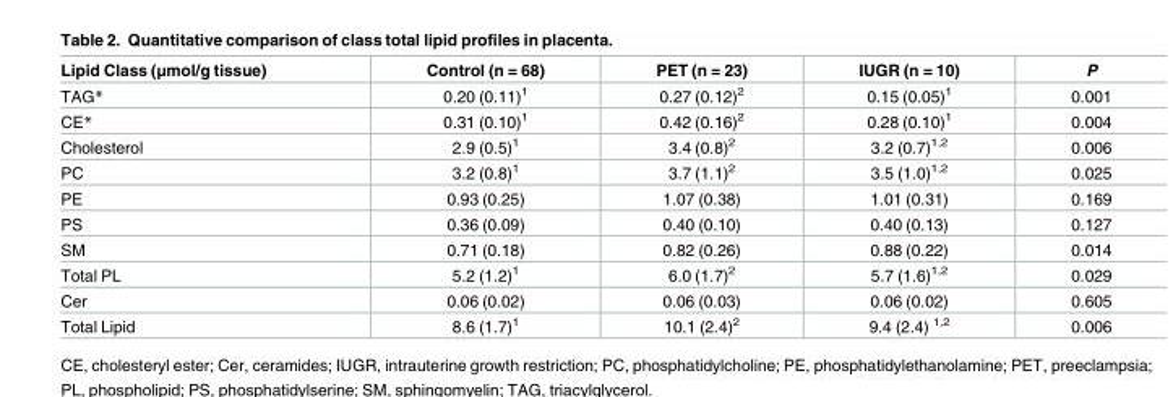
<table><thead><tr><td>Lipid Class (μmol/g tissue)</td><td>Control (n = 68)</td><td>PET (n = 23)</td><td>IUGR (n = 10)</td><td>P</td></tr></thead><tbody><tr><td>TAG*</td><td>0.20 (0.11)<sup>1</sup></td><td>0.27 (0.12)<sup>2</sup></td><td>0.15 (0.05)<sup>1</sup></td><td>0.001</td></tr><tr><td>CE*</td><td>0.31 (0.10)<sup>1</sup></td><td>0.42 (0.16)<sup>2</sup></td><td>0.28 (0.10)<sup>1</sup></td><td>0.004</td></tr><tr><td>Cholesterol</td><td>2.9 (0.5)<sup>1</sup></td><td>3.4 (0.8)<sup>2</sup></td><td>3.2 (0.7)<sup>1,2</sup></td><td>0.006</td></tr><tr><td>PC</td><td>3.2 (0.8)<sup>1</sup></td><td>3.7 (1.1)<sup>2</sup></td><td>3.5 (1.0)<sup>1,2</sup></td><td>0.025</td></tr><tr><td>PE</td><td>0.93 (0.25)</td><td>1.07 (0.38)</td><td>1.01 (0.31)</td><td>0.169</td></tr><tr><td>PS</td><td>0.36 (0.09)</td><td>0.40 (0.10)</td><td>0.40 (0.13)</td><td>0.127</td></tr><tr><td>SM</td><td>0.71 (0.18)</td><td>0.82 (0.26)</td><td>0.88 (0.22)</td><td>0.014</td></tr><tr><td>Total PL</td><td>5.2 (1.2)<sup>1</sup></td><td>6.0 (1.7)<sup>2</sup></td><td>5.7 (1.6)<sup>1,2</sup></td><td>0.029</td></tr><tr><td>Cer</td><td>0.06 (0.02)</td><td>0.06 (0.03)</td><td>0.06 (0.02)</td><td>0.605</td></tr><tr><td>Total Lipid</td><td>8.6 (1.7)<sup>1</sup></td><td>10.1 (2.4)<sup>2</sup></td><td>9.4 (2.4) <sup>1,2</sup></td><td>0.006</td></tr></tbody></table>